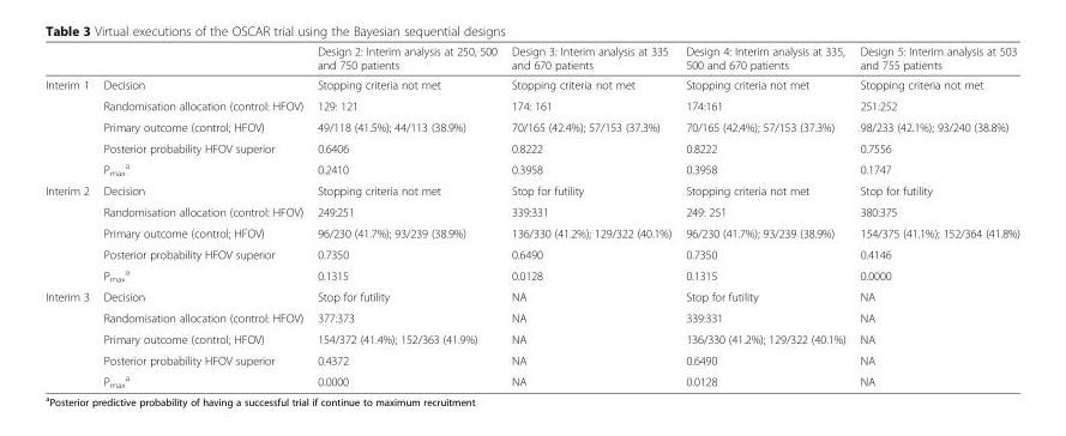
<table><thead><tr><td></td><td></td><td>Design 2: Interim analysis at 250, 500 and 750 patients</td><td>Design 3: Interim analysis at 335 and 670 patients</td><td>Design 4: Interim analysis at 335, 500 and 670 patients</td><td>Design 5: Interim analysis at 503 and 755 patients</td></tr></thead><tbody><tr><td rowspan="5">Interim 1</td><td>Decision</td><td>Stopping criteria not met</td><td>Stopping criteria not met</td><td>Stopping criteria not met</td><td>Stopping criteria not met</td></tr><tr><td>Randomisation allocation (control: HFOV)</td><td>129: 121</td><td>174: 161</td><td>174:161</td><td>251:252</td></tr><tr><td>Primary outcome (control; HFOV)</td><td>49/118 (41.5%); 44/113 (38.9%)</td><td>70/165 (42.4%); 57/153 (37.3%)</td><td>70/165 (42.4%); 57/153 (37.3%)</td><td>98/233 (42.1%); 93/240 (38.8%)</td></tr><tr><td>Posterior probability HFOV superior</td><td>0.6406</td><td>0.8222</td><td>0.8222</td><td>0.7556</td></tr><tr><td>P<sub>max</sub> <sup>a</sup></td><td>0.2410</td><td>0.3958</td><td>0.3958</td><td>0.1747</td></tr><tr><td rowspan="5">Interim 2</td><td>Decision</td><td>Stopping criteria not met</td><td>Stop for futility</td><td>Stopping criteria not met</td><td>Stop for futility</td></tr><tr><td>Randomisation allocation (control: HFOV)</td><td>249:251</td><td>339:331</td><td>249: 251</td><td>380:375</td></tr><tr><td>Primary outcome (control; HFOV)</td><td>96/230 (41.7%); 93/239 (38.9%)</td><td>136/330 (41.2%); 129/322 (40.1%)</td><td>96/230 (41.7%); 93/239 (38.9%)</td><td>154/375 (41.1%); 152/364 (41.8%)</td></tr><tr><td>Posterior probability HFOV superior</td><td>0.7350</td><td>0.6490</td><td>0.7350</td><td>0.4146</td></tr><tr><td>P<sub>max</sub> <sup>a</sup></td><td>0.1315</td><td>0.0128</td><td>0.1315</td><td>0.0000</td></tr><tr><td rowspan="5">Interim 3</td><td>Decision</td><td>Stop for futility</td><td>NA</td><td>Stop for futility</td><td>NA</td></tr><tr><td>Randomisation allocation (control: HFOV)</td><td>377:373</td><td>NA</td><td>339:331</td><td>NA</td></tr><tr><td>Primary outcome (control; HFOV)</td><td>154/372 (41.4%); 152/363 (41.9%)</td><td>NA</td><td>136/330 (41.2%); 129/322 (40.1%)</td><td>NA</td></tr><tr><td>Posterior probability HFOV superior</td><td>0.4372</td><td>NA</td><td>0.6490</td><td>NA</td></tr><tr><td>P<sub>max</sub> <sup>a</sup></td><td>0.0000</td><td>NA</td><td>0.0128</td><td>NA</td></tr></tbody></table>